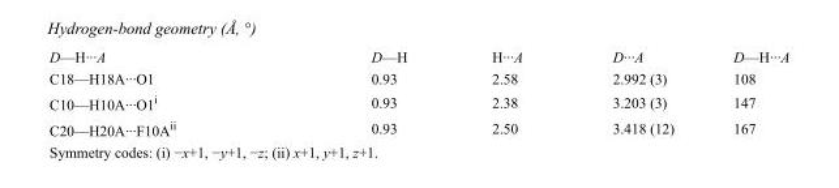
<table><tbody><tr><td>D—H···A</td><td>D—H</td><td>H···A</td><td>D···A</td><td>D—H···A</td></tr><tr><td>C18—H18A···O1</td><td>0.93</td><td>2.58</td><td>2.992 (3)</td><td>108</td></tr><tr><td>C10—H10A···O1<sup>i</sup></td><td>0.93</td><td>2.38</td><td>3.203 (3)</td><td>147</td></tr><tr><td>C20—H20A···F10A<sup>ii</sup></td><td>0.93</td><td>2.50</td><td>3.418 (12)</td><td>167</td></tr></tbody></table>